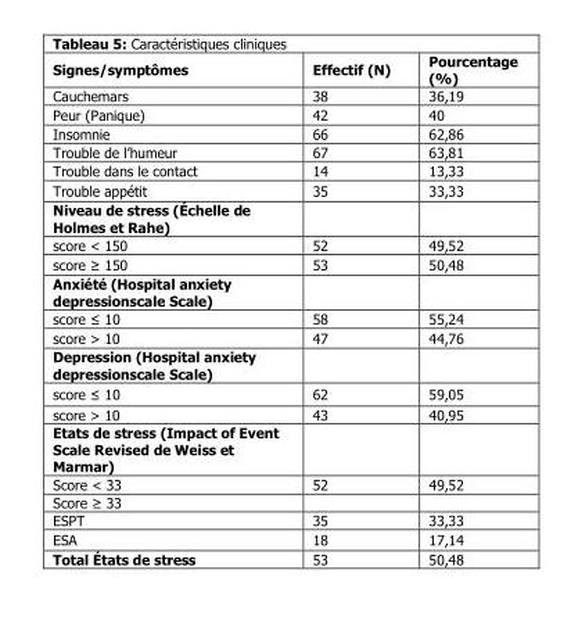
<table><thead><tr><td>Signes/symptômes</td><td>Effectif (N)</td><td>Pourcentage (%)</td></tr></thead><tbody><tr><td>Cauchemars</td><td>38</td><td>36,19</td></tr><tr><td>Peur (Panique)</td><td>42</td><td>40</td></tr><tr><td>Insomnie</td><td>66</td><td>62,86</td></tr><tr><td>Trouble de l’humeur</td><td>67</td><td>63,81</td></tr><tr><td>Trouble dans le contact</td><td>14</td><td>13,33</td></tr><tr><td>Trouble appétit</td><td>35</td><td>33,33</td></tr><tr><td colspan="3">Niveau de stress (Échelle de Holmes et Rahe)</td></tr><tr><td>score &lt; 150</td><td>52</td><td>49,52</td></tr><tr><td>score ≥ 150</td><td>53</td><td>50,48</td></tr><tr><td colspan="3">Anxiété (Hospital anxiety depressionscale Scale)</td></tr><tr><td>score ≤ 10</td><td>58</td><td>55,24</td></tr><tr><td>score &gt; 10</td><td>47</td><td>44,76</td></tr><tr><td colspan="3">Depression (Hospital anxiety depressionscale Scale)</td></tr><tr><td>score ≤ 10</td><td>62</td><td>59,05</td></tr><tr><td>score &gt; 10</td><td>43</td><td>40,95</td></tr><tr><td colspan="3">Etats de stress (Impact of Event Scale Revised de Weiss et Marmar)</td></tr><tr><td>Score &lt; 33</td><td>52</td><td>49,52</td></tr><tr><td colspan="3">Score ≥ 33</td></tr><tr><td>ESPT</td><td>35</td><td>33,33</td></tr><tr><td>ESA</td><td>18</td><td>17,14</td></tr><tr><td>Total États de stress</td><td>53</td><td>50,48</td></tr></tbody></table>